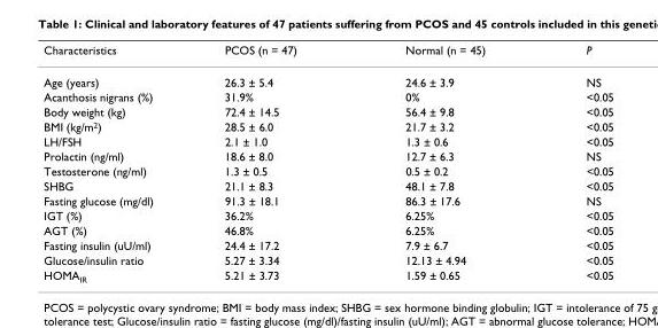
<table><thead><tr><td>Characteristics</td><td>PCOS (n = 47)</td><td>Normal (n = 45)</td><td>P</td></tr></thead><tbody><tr><td>Age (years)</td><td>26.3 ± 5.4</td><td>24.6 ± 3.9</td><td>NS</td></tr><tr><td>Acanthosis nigrans (%)</td><td>31.9%</td><td>0%</td><td>&lt;0.05</td></tr><tr><td>Body weight (kg)</td><td>72.4 ± 14.5</td><td>56.4 ± 9.8</td><td>&lt;0.05</td></tr><tr><td>BMI (kg/m<sup>2</sup>)</td><td>28.5 ± 6.0</td><td>21.7 ± 3.2</td><td>&lt;0.05</td></tr><tr><td>LH/FSH</td><td>2.1 ± 1.0</td><td>1.3 ± 0.6</td><td>&lt;0.05</td></tr><tr><td>Prolactin (ng/ml)</td><td>18.6 ± 8.0</td><td>12.7 ± 6.3</td><td>NS</td></tr><tr><td>Testosterone (ng/ml)</td><td>1.3 ± 0.5</td><td>0.5 ± 0.2</td><td>&lt;0.05</td></tr><tr><td>SHBG</td><td>21.1 ± 8.3</td><td>48.1 ± 7.8</td><td>&lt;0.05</td></tr><tr><td>Fasting glucose (mg/dl)</td><td>91.3 ± 18.1</td><td>86.3 ± 17.6</td><td>NS</td></tr><tr><td>IGT (%)</td><td>36.2%</td><td>6.25%</td><td>&lt;0.05</td></tr><tr><td>AGT (%)</td><td>46.8%</td><td>6.25%</td><td>&lt;0.05</td></tr><tr><td>Fasting insulin (uU/ml)</td><td>24.4 ± 17.2</td><td>7.9 ± 6.7</td><td>&lt;0.05</td></tr><tr><td>Glucose/insulin ratio</td><td>5.27 ± 3.34</td><td>12.13 ± 4.94</td><td>&lt;0.05</td></tr><tr><td>HOMA<sub>IR</sub></td><td>5.21 ± 3.73</td><td>1.59 ± 0.65</td><td>&lt;0.05</td></tr></tbody></table>